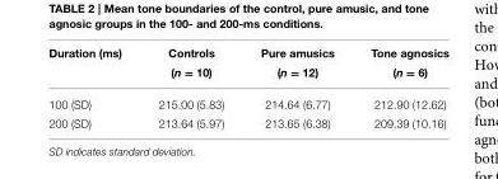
<table><thead><tr><td>Duration (ms)</td><td>Controls (n = 10)</td><td>Pure amusics (n = 12)</td><td>Tone agnosics (n = 6)</td></tr></thead><tbody><tr><td>100 (SD)</td><td>215.00 (5.83)</td><td>214.64 (6.77)</td><td>212.90 (12.62)</td></tr><tr><td>200 (SD)</td><td>213.64 (5.97)</td><td>213.65 (6.38)</td><td>209.39 (10.16)</td></tr></tbody></table>